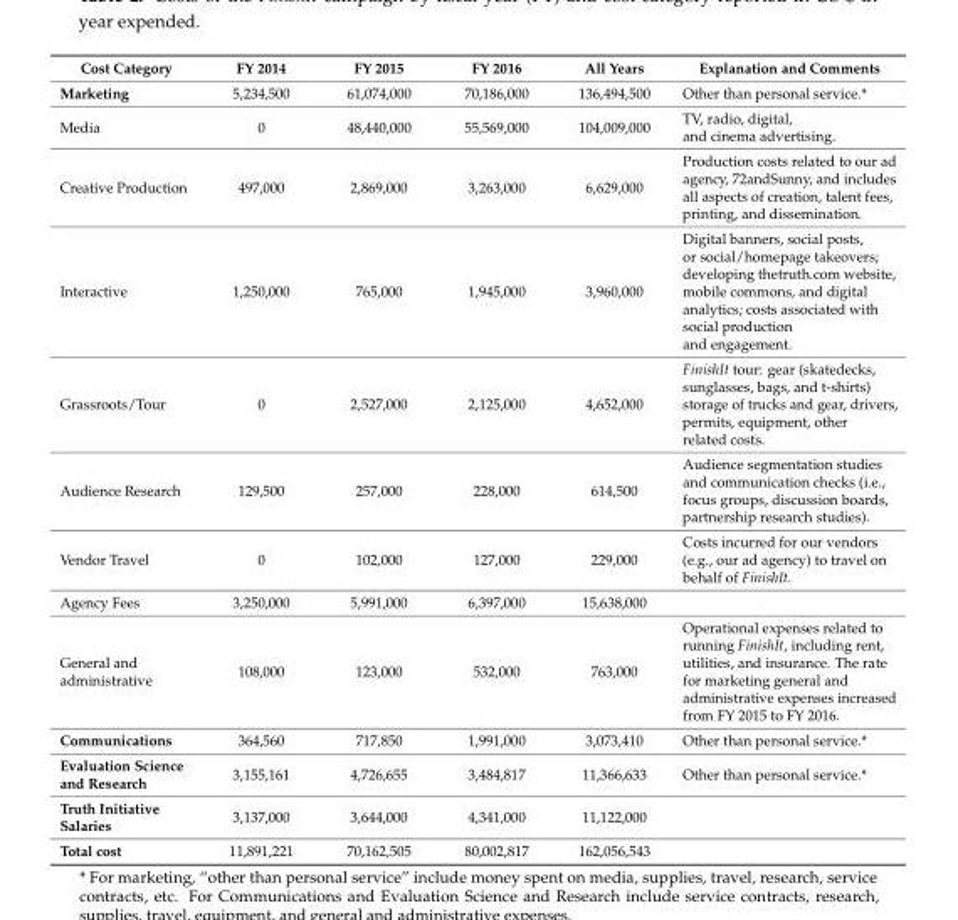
<table><thead><tr><td>Cost Category</td><td>FY 2014</td><td>FY 2015</td><td>FY 2016</td><td>All Years</td><td>Explanation and Comments</td></tr></thead><tbody><tr><td>Marketing</td><td>5,234,500</td><td>61,074,000</td><td>70,186,000</td><td>136,494,500</td><td>Other than personal service.*</td></tr><tr><td>Media</td><td>0</td><td>48,440,000</td><td>55,569,000</td><td>104,009,000</td><td>TV, radio, digital, and cinema advertising.</td></tr><tr><td>Creative Production</td><td>497,000</td><td>2,869,000</td><td>3,263,000</td><td>6,629,000</td><td>Production costs related to our ad agency, 72andSunny, and includes all aspects of creation, talent fees, printing, and dissemination.</td></tr><tr><td>Interactive</td><td>1,250,000</td><td>765,000</td><td>1,945,000</td><td>3,960,000</td><td>Digital banners, social posts, or social/homepage takeovers; developing thetruth.com website, mobile commons, and digital analytics; costs associated with social production and engagement.</td></tr><tr><td>Grassroots/Tour</td><td>0</td><td>2,527,000</td><td>2,125,000</td><td>4,652,000</td><td>FinishIt tour: gear (skatedecks, sunglasses, bags, and t-shirts) storage of trucks and gear, drivers, permits, equipment, other related costs.</td></tr><tr><td>Audience Research</td><td>129,500</td><td>257,000</td><td>228,000</td><td>614,500</td><td>Audience segmentation studies and communication checks (i.e., focus groups, discussion boards, partnership research studies).</td></tr><tr><td>Vendor Travel</td><td>0</td><td>102,000</td><td>127,000</td><td>229,000</td><td>Costs incurred for our vendors (e.g., our ad agency) to travel on behalf of FinishIt.</td></tr><tr><td>Agency Fees</td><td>3,250,000</td><td>5,991,000</td><td>6,397,000</td><td>15,638,000</td><td></td></tr><tr><td>General and administrative</td><td>108,000</td><td>123,000</td><td>532,000</td><td>763,000</td><td>Operational expenses related to running FinishIt, including rent, utilities, and insurance. The rate for marketing general and administrative expenses increased from FY 2015 to FY 2016.</td></tr><tr><td>Communications</td><td>364,560</td><td>717,850</td><td>1,991,000</td><td>3,073,410</td><td>Other than personal service.*</td></tr><tr><td>Evaluation Science and Research</td><td>3,155,161</td><td>4,726,655</td><td>3,484,817</td><td>11,366,633</td><td>Other than personal service.*</td></tr><tr><td>Truth Initiative Salaries</td><td>3,137,000</td><td>3,644,000</td><td>4,341,000</td><td>11,122,000</td><td></td></tr><tr><td>Total cost</td><td>11,891,221</td><td>70,162,505</td><td>80,002,817</td><td>162,056,543</td><td></td></tr></tbody></table>